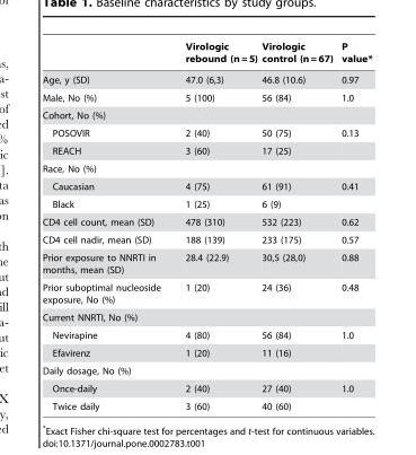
<table><thead><tr><td></td><td>Virologic rebound (n = 5)</td><td>Virologic control (n = 67)</td><td>P value*</td></tr></thead><tbody><tr><td>Age, y (SD)</td><td>47.0 (6,3)</td><td>46.8 (10.6)</td><td>0.97</td></tr><tr><td>Male, No (%)</td><td>5 (100)</td><td>56 (84)</td><td>1.0</td></tr><tr><td colspan="4">Cohort, No (%)</td></tr><tr><td>POSOVIR</td><td>2 (40)</td><td>50 (75)</td><td>0.13</td></tr><tr><td>REACH</td><td>3 (60)</td><td>17 (25)</td><td></td></tr><tr><td colspan="4">Race, No (%)</td></tr><tr><td>Caucasian</td><td>4 (75)</td><td>61 (91)</td><td>0.41</td></tr><tr><td>Black</td><td>1 (25)</td><td>6 (9)</td><td></td></tr><tr><td>CD4 cell count, mean (SD)</td><td>478 (310)</td><td>532 (223)</td><td>0.62</td></tr><tr><td>CD4 cell nadir, mean (SD)</td><td>188 (139)</td><td>233 (175)</td><td>0.57</td></tr><tr><td>Prior exposure to NNRTI in months, mean (SD)</td><td>28.4 (22.9)</td><td>30,5 (28,0)</td><td>0.88</td></tr><tr><td>Prior suboptimal nucleoside exposure, No (%)</td><td>1 (20)</td><td>24 (36)</td><td>0.48</td></tr><tr><td colspan="4">Current NNRTI, No (%)</td></tr><tr><td>Nevirapine</td><td>4 (80)</td><td>56 (84)</td><td>1.0</td></tr><tr><td>Efavirenz</td><td>1 (20)</td><td>11 (16)</td><td></td></tr><tr><td colspan="4">Daily dosage, No (%)</td></tr><tr><td>Once-daily</td><td>2 (40)</td><td>27 (40)</td><td>1.0</td></tr><tr><td>Twice daily</td><td>3 (60)</td><td>40 (60)</td><td></td></tr></tbody></table>